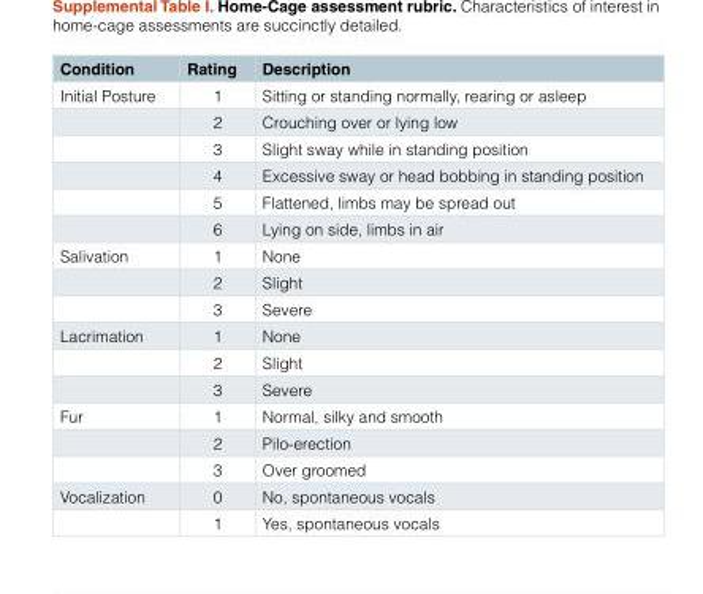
<table><thead><tr><td>Condition</td><td>Rating</td><td>Description</td></tr></thead><tbody><tr><td rowspan="6">Initial Posture</td><td>1</td><td>Sitting or standing normally, rearing or asleep</td></tr><tr><td>2</td><td>Crouching over or lying low</td></tr><tr><td>3</td><td>Slight sway while in standing position</td></tr><tr><td>4</td><td>Excessive sway or head bobbing in standing position</td></tr><tr><td>5</td><td>Flattened, limbs may be spread out</td></tr><tr><td>6</td><td>Lying on side, limbs in air</td></tr><tr><td rowspan="3">Salivation</td><td>1</td><td>None</td></tr><tr><td>2</td><td>Slight</td></tr><tr><td>3</td><td>Severe</td></tr><tr><td rowspan="3">Lacrimation</td><td>1</td><td>None</td></tr><tr><td>2</td><td>Slight</td></tr><tr><td>3</td><td>Severe</td></tr><tr><td rowspan="3">Fur</td><td>1</td><td>Normal, silky and smooth</td></tr><tr><td>2</td><td>Pilo-erection</td></tr><tr><td>3</td><td>Over groomed</td></tr><tr><td rowspan="2">Vocalization</td><td>0</td><td>No, spontaneous vocals</td></tr><tr><td>1</td><td>Yes, spontaneous vocals</td></tr></tbody></table>